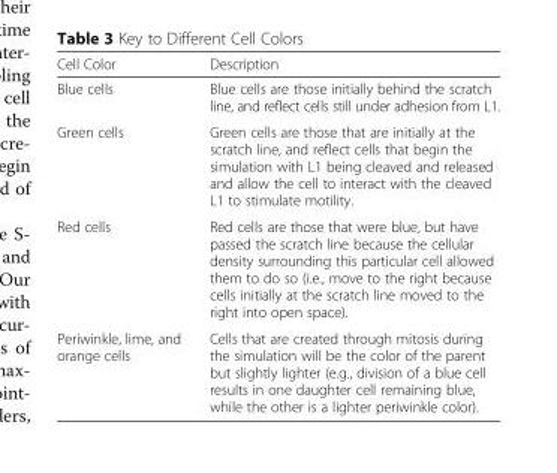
<table><thead><tr><td>Cell Color</td><td>Description</td></tr></thead><tbody><tr><td>Blue cells</td><td>Blue cells are those initially behind the scratch line, and reflect cells still under adhesion from L1.</td></tr><tr><td>Green cells</td><td>Green cells are those that are initially at the scratch line, and reflect cells that begin the simulation with L1 being cleaved and released and allow the cell to interact with the cleaved L1 to stimulate motility.</td></tr><tr><td>Red cells</td><td>Red cells are those that were blue, but have passed the scratch line because the cellular density surrounding this particular cell allowed them to do so (i.e., move to the right because cells initially at the scratch line moved to the right into open space).</td></tr><tr><td>Periwinkle, lime, and orange cells</td><td>Cells that are created through mitosis during the simulation will be the color of the parent but slightly lighter (e.g., division of a blue cell results in one daughter cell remaining blue, while the other is a lighter periwinkle color).</td></tr></tbody></table>